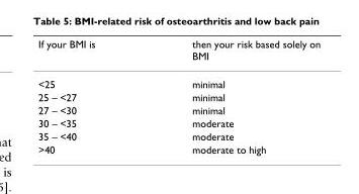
<table><thead><tr><td>If your BMI is</td><td>then your risk based solely on BMI</td></tr></thead><tbody><tr><td>&lt;25</td><td>minimal</td></tr><tr><td>25 – &lt;27</td><td>minimal</td></tr><tr><td>27 – &lt;30</td><td>minimal</td></tr><tr><td>30 – &lt;35</td><td>moderate</td></tr><tr><td>35 – &lt;40</td><td>moderate</td></tr><tr><td>&gt;40</td><td>moderate to high</td></tr></tbody></table>